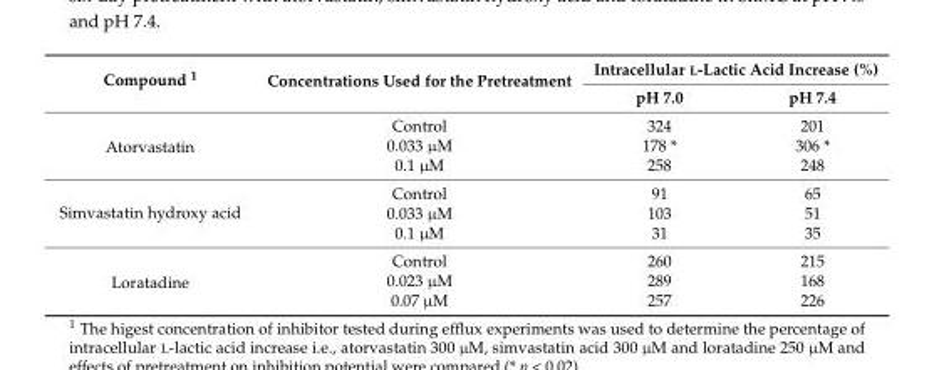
<table><thead><tr><td rowspan="2">Compound <sup>1</sup></td><td rowspan="2">Concentrations Used for the Pretreatment</td><td colspan="2">Intracellular L-Lactic Acid Increase (%)</td></tr><tr><td>pH 7.0</td><td>pH 7.4</td></tr></thead><tbody><tr><td rowspan="3">Atorvastatin</td><td>Control</td><td>324</td><td>201</td></tr><tr><td>0.033 µM</td><td>178 *</td><td>306 *</td></tr><tr><td>0.1 µM</td><td>258</td><td>248</td></tr><tr><td rowspan="3">Simvastatin hydroxy acid</td><td>Control</td><td>91</td><td>65</td></tr><tr><td>0.033 µM</td><td>103</td><td>51</td></tr><tr><td>0.1 µM</td><td>31</td><td>35</td></tr><tr><td rowspan="3">Loratadine</td><td>Control</td><td>260</td><td>215</td></tr><tr><td>0.023 µM</td><td>289</td><td>168</td></tr><tr><td>0.07 µM</td><td>257</td><td>226</td></tr></tbody></table>